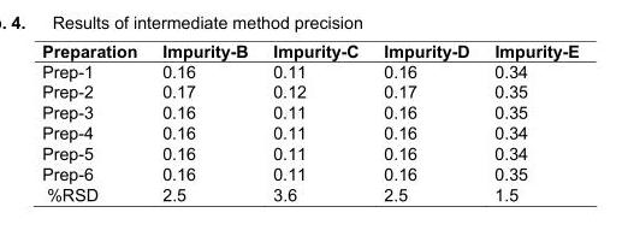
<table><thead><tr><td>Preparation</td><td>Impurity-B</td><td>Impurity-C</td><td>Impurity-D</td><td>Impurity-E</td></tr></thead><tbody><tr><td>Prep-1</td><td>0.16</td><td>0.11</td><td>0.16</td><td>0.34</td></tr><tr><td>Prep-2</td><td>0.17</td><td>0.12</td><td>0.17</td><td>0.35</td></tr><tr><td>Prep-3</td><td>0.16</td><td>0.11</td><td>0.16</td><td>0.35</td></tr><tr><td>Prep-4</td><td>0.16</td><td>0.11</td><td>0.16</td><td>0.34</td></tr><tr><td>Prep-5</td><td>0.16</td><td>0.11</td><td>0.16</td><td>0.34</td></tr><tr><td>Prep-6</td><td>0.16</td><td>0.11</td><td>0.16</td><td>0.35</td></tr><tr><td>%RSD</td><td>2.5</td><td>3.6</td><td>2.5</td><td>1.5</td></tr></tbody></table>